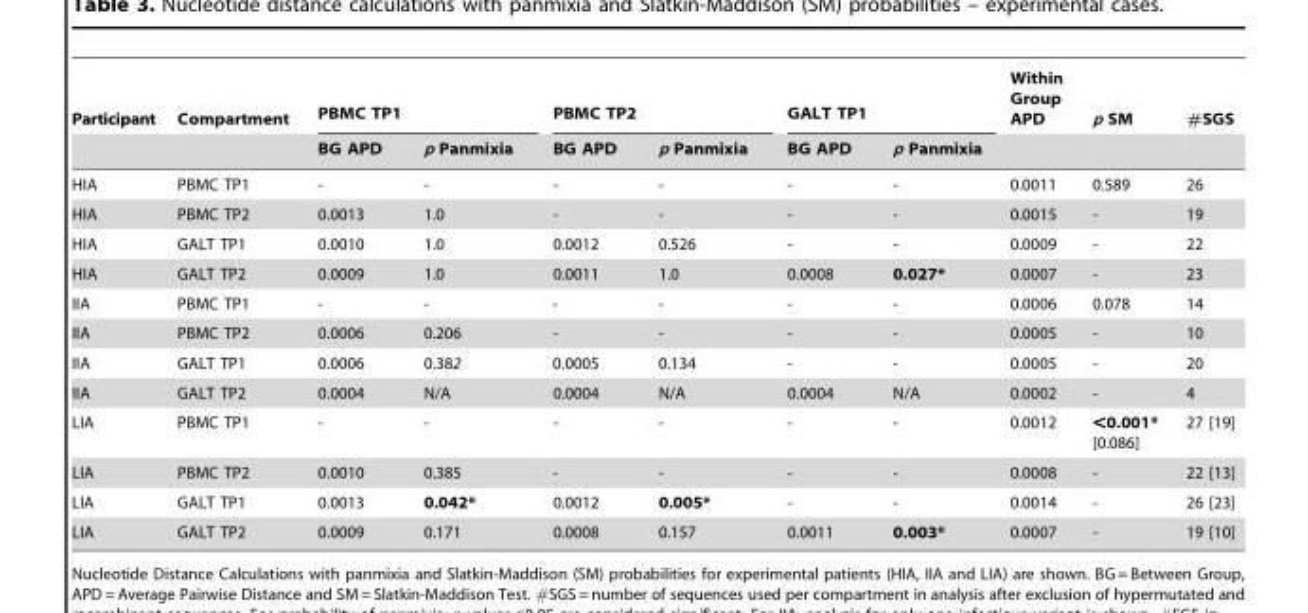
<table><thead><tr><td rowspan="2">Participant</td><td rowspan="2">Compartment</td><td colspan="2">PBMC TP1</td><td colspan="2">PBMC TP2</td><td colspan="2">GALT TP1</td><td rowspan="2">Within Group APD</td><td rowspan="2">p SM</td><td rowspan="2">#SGS</td></tr><tr><td>BG APD</td><td>p Panmixia</td><td>BG APD</td><td>p Panmixia</td><td>BG APD</td><td>p Panmixia</td></tr></thead><tbody><tr><td>HIA</td><td>PBMC TP1</td><td>-</td><td>-</td><td>-</td><td>-</td><td>-</td><td>-</td><td>0.0011</td><td>0.589</td><td>26</td></tr><tr><td>HIA</td><td>PBMC TP2</td><td>0.0013</td><td>1.0</td><td>-</td><td>-</td><td>-</td><td>-</td><td>0.0015</td><td>-</td><td>19</td></tr><tr><td>HIA</td><td>GALT TP1</td><td>0.0010</td><td>1.0</td><td>0.0012</td><td>0.526</td><td>-</td><td>-</td><td>0.0009</td><td>-</td><td>22</td></tr><tr><td>HIA</td><td>GALT TP2</td><td>0.0009</td><td>1.0</td><td>0.0011</td><td>1.0</td><td>0.0008</td><td>0.027*</td><td>0.0007</td><td>-</td><td>23</td></tr><tr><td>IIA</td><td>PBMC TP1</td><td>-</td><td>-</td><td>-</td><td>-</td><td>-</td><td>-</td><td>0.0006</td><td>0.078</td><td>14</td></tr><tr><td>IIA</td><td>PBMC TP2</td><td>0.0006</td><td>0.206</td><td>-</td><td>-</td><td>-</td><td>-</td><td>0.0005</td><td>-</td><td>10</td></tr><tr><td>IIA</td><td>GALT TP1</td><td>0.0006</td><td>0.382</td><td>0.0005</td><td>0.134</td><td>-</td><td>-</td><td>0.0005</td><td>-</td><td>20</td></tr><tr><td>IIA</td><td>GALT TP2</td><td>0.0004</td><td>N/A</td><td>0.0004</td><td>N/A</td><td>0.0004</td><td>N/A</td><td>0.0002</td><td>-</td><td>4</td></tr><tr><td>LIA</td><td>PBMC TP1</td><td>-</td><td>-</td><td>-</td><td>-</td><td>-</td><td>-</td><td>0.0012</td><td>&lt;0.001* [0.086]</td><td>27 [19]</td></tr><tr><td>LIA</td><td>PBMC TP2</td><td>0.0010</td><td>0.385</td><td>-</td><td>-</td><td>-</td><td>-</td><td>0.0008</td><td>-</td><td>22 [13]</td></tr><tr><td>LIA</td><td>GALT TP1</td><td>0.0013</td><td>0.042*</td><td>0.0012</td><td>0.005*</td><td>-</td><td>-</td><td>0.0014</td><td>-</td><td>26 [23]</td></tr><tr><td>LIA</td><td>GALT TP2</td><td>0.0009</td><td>0.171</td><td>0.0008</td><td>0.157</td><td>0.0011</td><td>0.003*</td><td>0.0007</td><td>-</td><td>19 [10]</td></tr></tbody></table>